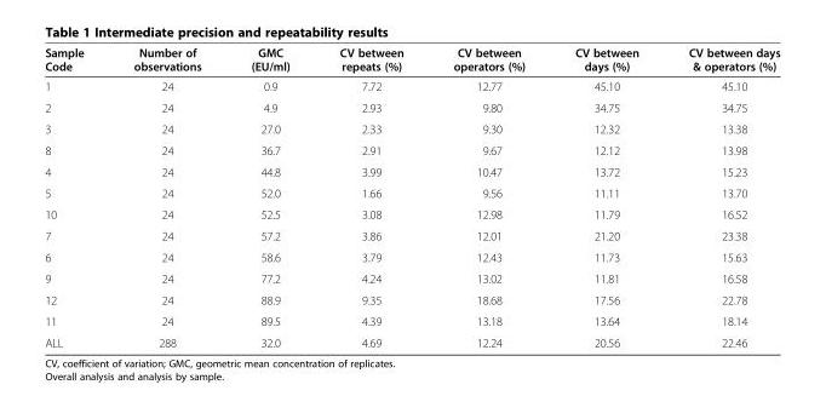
<table><thead><tr><td>Sample Code</td><td>Number of observations</td><td>GMC (EU/ml)</td><td>CV between repeats (%)</td><td>CV between operators (%)</td><td>CV between days (%)</td><td>CV between days &amp; operators (%)</td></tr></thead><tbody><tr><td>1</td><td>24</td><td>0.9</td><td>7.72</td><td>12.77</td><td>45.10</td><td>45.10</td></tr><tr><td>2</td><td>24</td><td>4.9</td><td>2.93</td><td>9.80</td><td>34.75</td><td>34.75</td></tr><tr><td>3</td><td>24</td><td>27.0</td><td>2.33</td><td>9.30</td><td>12.32</td><td>13.38</td></tr><tr><td>8</td><td>24</td><td>36.7</td><td>2.91</td><td>9.67</td><td>12.12</td><td>13.98</td></tr><tr><td>4</td><td>24</td><td>44.8</td><td>3.99</td><td>10.47</td><td>13.72</td><td>15.23</td></tr><tr><td>5</td><td>24</td><td>52.0</td><td>1.66</td><td>9.56</td><td>11.11</td><td>13.70</td></tr><tr><td>10</td><td>24</td><td>52.5</td><td>3.08</td><td>12.98</td><td>11.79</td><td>16.52</td></tr><tr><td>7</td><td>24</td><td>57.2</td><td>3.86</td><td>12.01</td><td>21.20</td><td>23.38</td></tr><tr><td>6</td><td>24</td><td>58.6</td><td>3.79</td><td>12.43</td><td>11.73</td><td>15.63</td></tr><tr><td>9</td><td>24</td><td>77.2</td><td>4.24</td><td>13.02</td><td>11.81</td><td>16.58</td></tr><tr><td>12</td><td>24</td><td>88.9</td><td>9.35</td><td>18.68</td><td>17.56</td><td>22.78</td></tr><tr><td>11</td><td>24</td><td>89.5</td><td>4.39</td><td>13.18</td><td>13.64</td><td>18.14</td></tr><tr><td>ALL</td><td>288</td><td>32.0</td><td>4.69</td><td>12.24</td><td>20.56</td><td>22.46</td></tr></tbody></table>